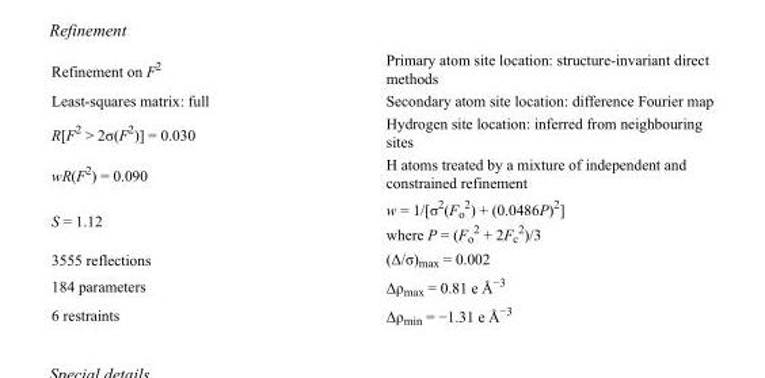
<table><tbody><tr><td>Refinement on F<sup>2</sup></td><td>Primary atom site location: structure-invariant direct methods</td></tr><tr><td>Least-squares matrix: full</td><td>Secondary atom site location: difference Fourier map</td></tr><tr><td>R[F<sup>2</sup> &gt; 2σ(F<sup>2</sup>)] = 0.030</td><td>Hydrogen site location: inferred from neighbouring sites</td></tr><tr><td>wR(F<sup>2</sup>) = 0.090</td><td>H atoms treated by a mixture of independent and constrained refinement</td></tr><tr><td>S = 1.12</td><td>w = 1/[σ<sup>2</sup>(F<sub>o</sub> <sup>2</sup>) + (0.0486P)<sup>2</sup>] where P = (F<sub>o</sub> <sup>2</sup> + 2F<sub>c</sub> <sup>2</sup>)/3</td></tr><tr><td>3555 reflections</td><td>(Δ/σ)<sub>max</sub> = 0.002</td></tr><tr><td>184 parameters</td><td>Δρ<sub>max</sub> = 0.81 e Å<sup>−3</sup></td></tr><tr><td>6 restraints</td><td>Δρ<sub>min</sub> = −1.31 e Å<sup>−3</sup></td></tr></tbody></table>